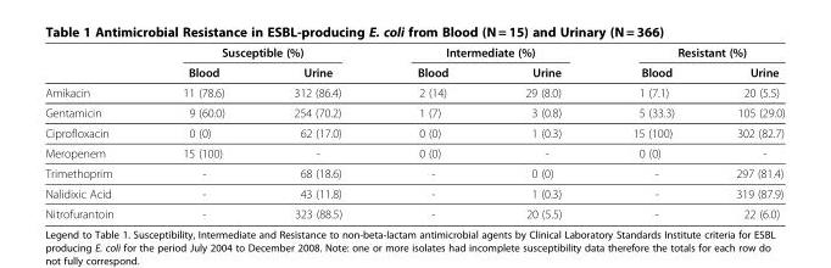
<table><thead><tr><td rowspan="2"></td><td colspan="2">Susceptible (%)</td><td colspan="2">Intermediate (%)</td><td colspan="2">Resistant (%)</td></tr><tr><td>Blood</td><td>Urine</td><td>Blood</td><td>Urine</td><td>Blood</td><td>Urine</td></tr></thead><tbody><tr><td>Amikacin</td><td>11 (78.6)</td><td>312 (86.4)</td><td>2 (14)</td><td>29 (8.0)</td><td>1 (7.1)</td><td>20 (5.5)</td></tr><tr><td>Gentamicin</td><td>9 (60.0)</td><td>254 (70.2)</td><td>1 (7)</td><td>3 (0.8)</td><td>5 (33.3)</td><td>105 (29.0)</td></tr><tr><td>Ciprofloxacin</td><td>0 (0)</td><td>62 (17.0)</td><td>0 (0)</td><td>1 (0.3)</td><td>15 (100)</td><td>302 (82.7)</td></tr><tr><td>Meropenem</td><td>15 (100)</td><td>-</td><td>0 (0)</td><td>-</td><td>0 (0)</td><td>-</td></tr><tr><td>Trimethoprim</td><td>-</td><td>68 (18.6)</td><td>-</td><td>0 (0)</td><td>-</td><td>297 (81.4)</td></tr><tr><td>Nalidixic Acid</td><td>-</td><td>43 (11.8)</td><td>-</td><td>1 (0.3)</td><td>-</td><td>319 (87.9)</td></tr><tr><td>Nitrofurantoin</td><td>-</td><td>323 (88.5)</td><td>-</td><td>20 (5.5)</td><td>-</td><td>22 (6.0)</td></tr></tbody></table>